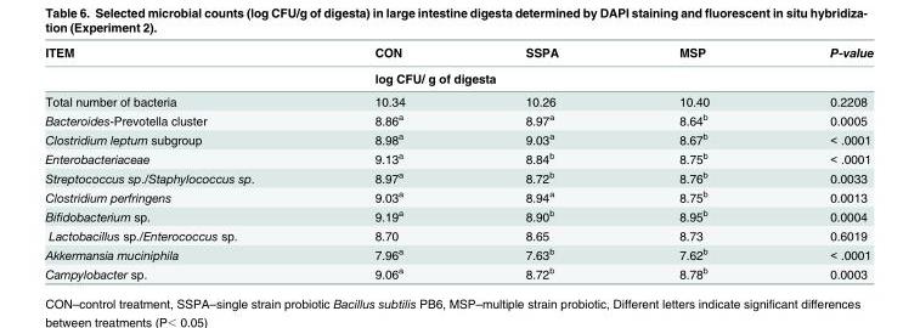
<table><thead><tr><td rowspan="2">ITEM</td><td>CON</td><td>SSPA</td><td>MSP</td><td rowspan="2">P-value</td></tr><tr><td colspan="3">log CFU/ g of digesta</td></tr></thead><tbody><tr><td>Total number of bacteria</td><td>10.34</td><td>10.26</td><td>10.40</td><td>0.2208</td></tr><tr><td>Bacteroides-Prevotella cluster</td><td>8.86<sup>a</sup></td><td>8.97<sup>a</sup></td><td>8.64<sup>b</sup></td><td>0.0005</td></tr><tr><td>Clostridium leptum subgroup</td><td>8.98<sup>a</sup></td><td>9.03<sup>a</sup></td><td>8.67<sup>b</sup></td><td>&lt; .0001</td></tr><tr><td>Enterobacteriaceae</td><td>9.13<sup>a</sup></td><td>8.84<sup>b</sup></td><td>8.75<sup>b</sup></td><td>&lt; .0001</td></tr><tr><td>Streptococcus sp./Staphylococcus sp.</td><td>8.97<sup>a</sup></td><td>8.72<sup>b</sup></td><td>8.76<sup>b</sup></td><td>0.0033</td></tr><tr><td>Clostridium perfringens</td><td>9.03<sup>a</sup></td><td>8.94<sup>a</sup></td><td>8.75<sup>b</sup></td><td>0.0013</td></tr><tr><td>Bifidobacterium sp.</td><td>9.19<sup>a</sup></td><td>8.90<sup>b</sup></td><td>8.95<sup>b</sup></td><td>0.0004</td></tr><tr><td>Lactobacillus sp./Enterococcus sp.</td><td>8.70</td><td>8.65</td><td>8.73</td><td>0.6019</td></tr><tr><td>Akkermansia muciniphila</td><td>7.96<sup>a</sup></td><td>7.63<sup>b</sup></td><td>7.62<sup>b</sup></td><td>&lt; .0001</td></tr><tr><td>Campylobacter sp.</td><td>9.06<sup>a</sup></td><td>8.72<sup>b</sup></td><td>8.78<sup>b</sup></td><td>0.0003</td></tr></tbody></table>